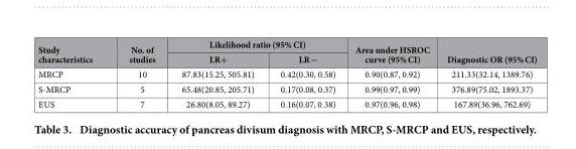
<table><thead><tr><td rowspan="2">Study characteristics</td><td rowspan="2">No. of studies</td><td colspan="2">Likelihood ratio (95% CI)</td><td rowspan="2">Area under HSROC curve (95% CI)</td><td rowspan="2">Diagnostic OR (95% CI)</td></tr><tr><td>LR+</td><td>LR−</td></tr></thead><tbody><tr><td>MRCP</td><td>10</td><td>87.83(15.25, 505.81)</td><td>0.42(0.30, 0.58)</td><td>0.90(0.87, 0.92)</td><td>211.33(32.14, 1389.76)</td></tr><tr><td>S-MRCP</td><td>5</td><td>65.48(20.85, 205.71)</td><td>0.17(0.08, 0.37)</td><td>0.99(0.97, 0.99)</td><td>376.89(75.02, 1893.37)</td></tr><tr><td>EUS</td><td>7</td><td>26.80(8.05, 89.27)</td><td>0.16(0.07, 0.38)</td><td>0.97(0.96, 0.98)</td><td>167.89(36.96, 762.69)</td></tr></tbody></table>